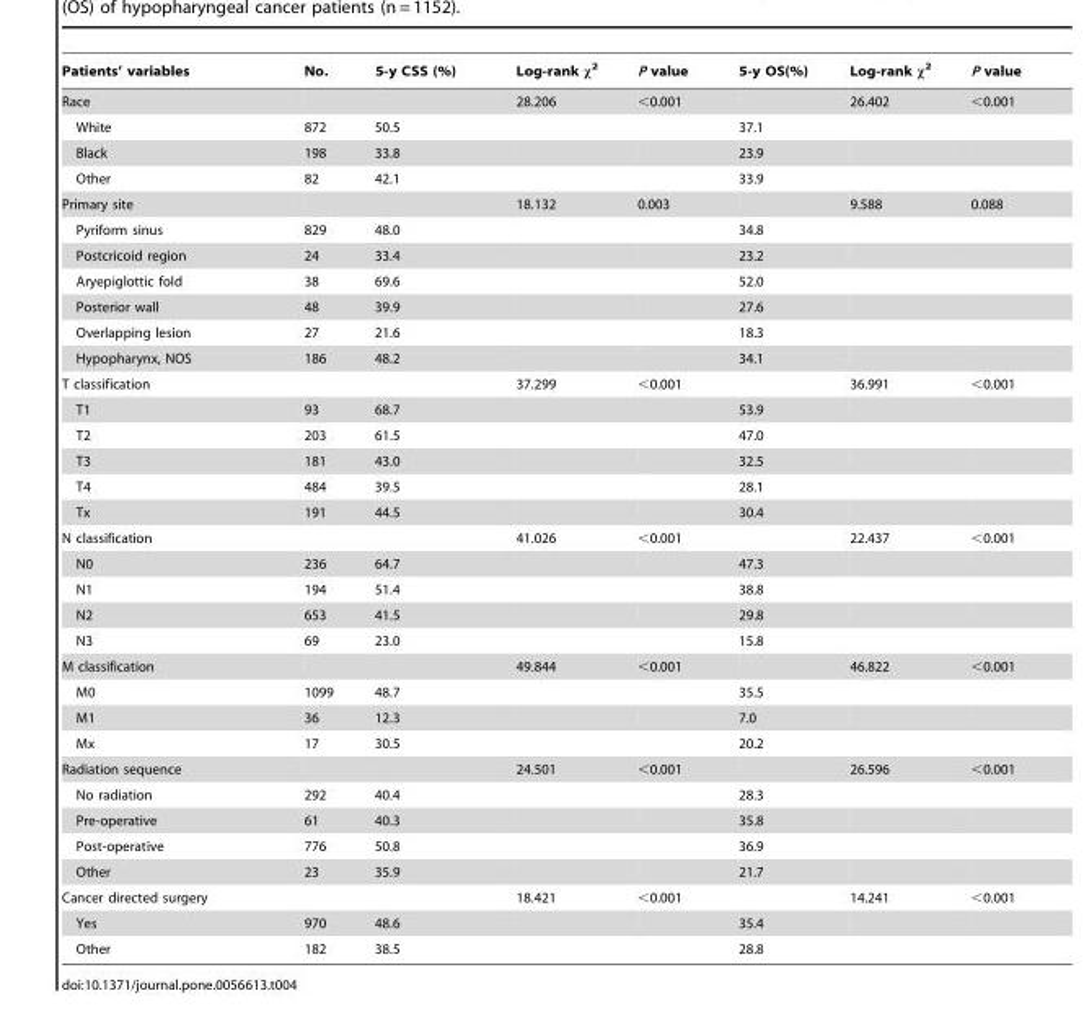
<table><thead><tr><td>Patients’ variables</td><td>No.</td><td>5-y CSS (%)</td><td>Log-rank χ<sup>2</sup></td><td>P value</td><td>5-y OS(%)</td><td>Log-rank χ<sup>2</sup></td><td>P value</td></tr></thead><tbody><tr><td>Race</td><td></td><td></td><td>28.206</td><td>&lt;0.001</td><td></td><td>26.402</td><td>&lt;0.001</td></tr><tr><td>White</td><td>872</td><td>50.5</td><td></td><td></td><td>37.1</td><td></td><td></td></tr><tr><td>Black</td><td>198</td><td>33.8</td><td></td><td></td><td>23.9</td><td></td><td></td></tr><tr><td>Other</td><td>82</td><td>42.1</td><td></td><td></td><td>33.9</td><td></td><td></td></tr><tr><td>Primary site</td><td></td><td></td><td>18.132</td><td>0.003</td><td></td><td>9.588</td><td>0.088</td></tr><tr><td>Pyriform sinus</td><td>829</td><td>48.0</td><td></td><td></td><td>34.8</td><td></td><td></td></tr><tr><td>Postcricoid region</td><td>24</td><td>33.4</td><td></td><td></td><td>23.2</td><td></td><td></td></tr><tr><td>Aryepiglottic fold</td><td>38</td><td>69.6</td><td></td><td></td><td>52.0</td><td></td><td></td></tr><tr><td>Posterior wall</td><td>48</td><td>39.9</td><td></td><td></td><td>27.6</td><td></td><td></td></tr><tr><td>Overlapping lesion</td><td>27</td><td>21.6</td><td></td><td></td><td>18.3</td><td></td><td></td></tr><tr><td>Hypopharynx, NOS</td><td>186</td><td>48.2</td><td></td><td></td><td>34.1</td><td></td><td></td></tr><tr><td>T classification</td><td></td><td></td><td>37.299</td><td>&lt;0.001</td><td></td><td>36.991</td><td>&lt;0.001</td></tr><tr><td>T1</td><td>93</td><td>68.7</td><td></td><td></td><td>53.9</td><td></td><td></td></tr><tr><td>T2</td><td>203</td><td>61.5</td><td></td><td></td><td>47.0</td><td></td><td></td></tr><tr><td>T3</td><td>181</td><td>43.0</td><td></td><td></td><td>32.5</td><td></td><td></td></tr><tr><td>T4</td><td>484</td><td>39.5</td><td></td><td></td><td>28.1</td><td></td><td></td></tr><tr><td>Tx</td><td>191</td><td>44.5</td><td></td><td></td><td>30.4</td><td></td><td></td></tr><tr><td>N classification</td><td></td><td></td><td>41.026</td><td>&lt;0.001</td><td></td><td>22.437</td><td>&lt;0.001</td></tr><tr><td>N0</td><td>236</td><td>64.7</td><td></td><td></td><td>47.3</td><td></td><td></td></tr><tr><td>N1</td><td>194</td><td>51.4</td><td></td><td></td><td>38.8</td><td></td><td></td></tr><tr><td>N2</td><td>653</td><td>41.5</td><td></td><td></td><td>29.8</td><td></td><td></td></tr><tr><td>N3</td><td>69</td><td>23.0</td><td></td><td></td><td>15.8</td><td></td><td></td></tr><tr><td>M classification</td><td></td><td></td><td>49.844</td><td>&lt;0.001</td><td></td><td>46.822</td><td>&lt;0.001</td></tr><tr><td>M0</td><td>1099</td><td>48.7</td><td></td><td></td><td>35.5</td><td></td><td></td></tr><tr><td>M1</td><td>36</td><td>12.3</td><td></td><td></td><td>7.0</td><td></td><td></td></tr><tr><td>Mx</td><td>17</td><td>30.5</td><td></td><td></td><td>20.2</td><td></td><td></td></tr><tr><td>Radiation sequence</td><td></td><td></td><td>24.501</td><td>&lt;0.001</td><td></td><td>26.596</td><td>&lt;0.001</td></tr><tr><td>No radiation</td><td>292</td><td>40.4</td><td></td><td></td><td>28.3</td><td></td><td></td></tr><tr><td>Pre-operative</td><td>61</td><td>40.3</td><td></td><td></td><td>35.8</td><td></td><td></td></tr><tr><td>Post-operative</td><td>776</td><td>50.8</td><td></td><td></td><td>36.9</td><td></td><td></td></tr><tr><td>Other</td><td>23</td><td>35.9</td><td></td><td></td><td>21.7</td><td></td><td></td></tr><tr><td>Cancer directed surgery</td><td></td><td></td><td>18.421</td><td>&lt;0.001</td><td></td><td>14.241</td><td>&lt;0.001</td></tr><tr><td>Yes</td><td>970</td><td>48.6</td><td></td><td></td><td>35.4</td><td></td><td></td></tr><tr><td>Other</td><td>182</td><td>38.5</td><td></td><td></td><td>28.8</td><td></td><td></td></tr></tbody></table>